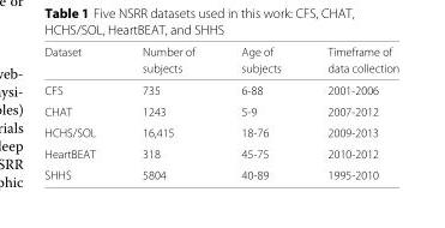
<table><thead><tr><td rowspan="2">Dataset</td><td rowspan="2">Number of subjects</td><td rowspan="2">Age of subjects</td><td rowspan="2">Timeframe of data collection</td></tr><tr></tr></thead><tbody><tr><td>CFS</td><td>735</td><td>6-88</td><td>2001-2006</td></tr><tr><td>CHAT</td><td>1243</td><td>5-9</td><td>2007-2012</td></tr><tr><td>HCHS/SOL</td><td>16,415</td><td>18-76</td><td>2009-2013</td></tr><tr><td>HeartBEAT</td><td>318</td><td>45-75</td><td>2010-2012</td></tr><tr><td>SHHS</td><td>5804</td><td>40-89</td><td>1995-2010</td></tr></tbody></table>